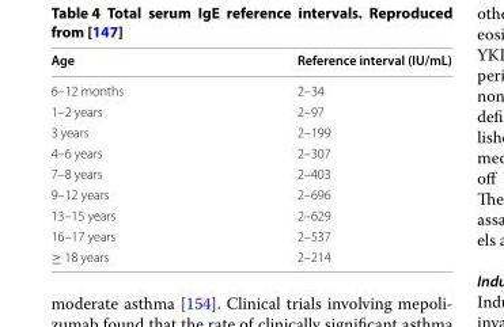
<table><thead><tr><td>Age</td><td>Reference interval (IU/mL)</td></tr></thead><tbody><tr><td>6–12 months</td><td>2–34</td></tr><tr><td>1–2 years</td><td>2–97</td></tr><tr><td>3 years</td><td>2–199</td></tr><tr><td>4–6 years</td><td>2–307</td></tr><tr><td>7–8 years</td><td>2–403</td></tr><tr><td>9–12 years</td><td>2–696</td></tr><tr><td>13–15 years</td><td>2–629</td></tr><tr><td>16–17 years</td><td>2–537</td></tr><tr><td>≥ 18 years</td><td>2–214</td></tr></tbody></table>